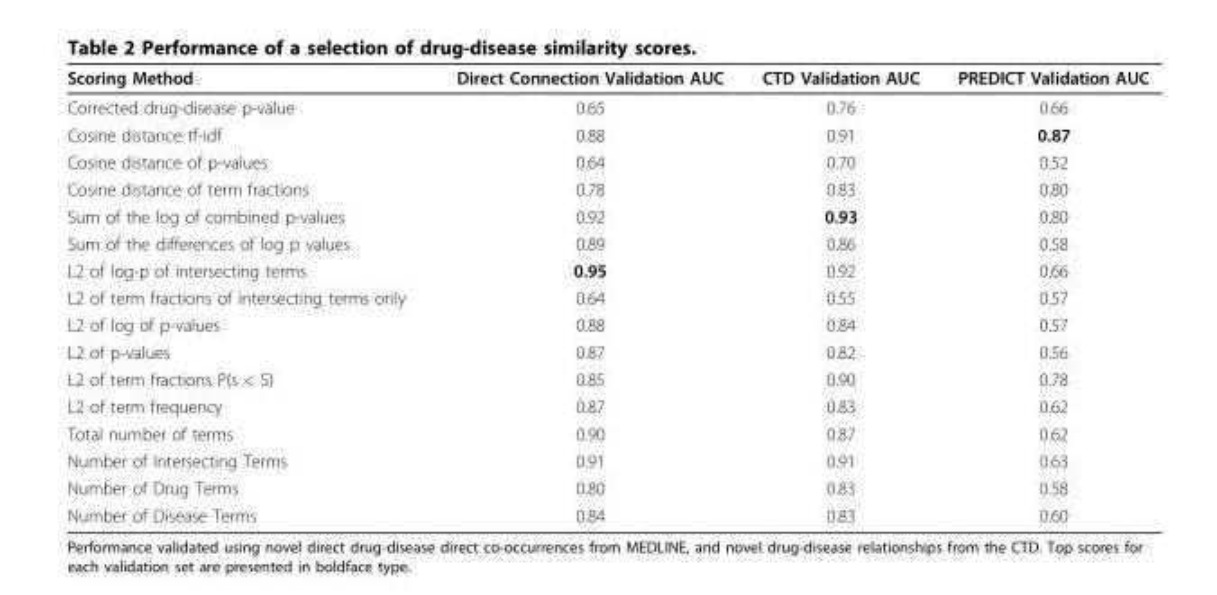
<table><thead><tr><td>Scoring Method</td><td>Direct Connection Validation AUC</td><td>CTD Validation AUC</td><td>PREDICT Validation AUC</td></tr></thead><tbody><tr><td>Corrected drug-disease p-value</td><td>0.65</td><td>0.76</td><td>0.66</td></tr><tr><td>Cosine distance tf-idf</td><td>0.88</td><td>0.91</td><td>0.87</td></tr><tr><td>Cosine distance of p-values</td><td>0.64</td><td>0.70</td><td>0.52</td></tr><tr><td>Cosine distance of term fractions</td><td>0.78</td><td>0.83</td><td>0.80</td></tr><tr><td>Sum of the log of combined p-values</td><td>0.92</td><td>0.93</td><td>0.80</td></tr><tr><td>Sum of the differences of log p values</td><td>0.89</td><td>0.86</td><td>0.58</td></tr><tr><td>L2 of log-p of intersecting terms</td><td>0.95</td><td>0.92</td><td>0.66</td></tr><tr><td>L2 of term fractions of intersecting terms only</td><td>0.64</td><td>0.55</td><td>0.57</td></tr><tr><td>L2 of log of p-values</td><td>0.88</td><td>0.84</td><td>0.57</td></tr><tr><td>L2 of p-values</td><td>0.87</td><td>0.82</td><td>0.56</td></tr><tr><td>L2 of term fractions P(s &lt; S)</td><td>0.85</td><td>0.90</td><td>0.78</td></tr><tr><td>L2 of term frequency</td><td>0.87</td><td>0.83</td><td>0.62</td></tr><tr><td>Total number of terms</td><td>0.90</td><td>0.87</td><td>0.62</td></tr><tr><td>Number of Intersecting Terms</td><td>0.91</td><td>0.91</td><td>0.63</td></tr><tr><td>Number of Drug Terms</td><td>0.80</td><td>0.83</td><td>0.58</td></tr><tr><td>Number of Disease Terms</td><td>0.84</td><td>0.83</td><td>0.60</td></tr></tbody></table>